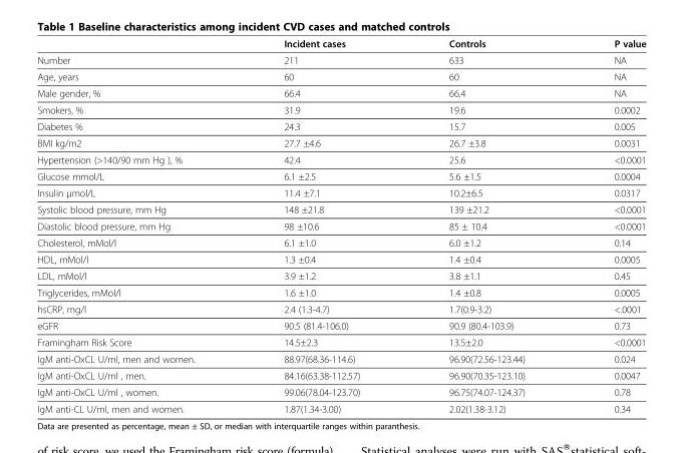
<table><thead><tr><td></td><td>Incident cases</td><td>Controls</td><td>P value</td></tr></thead><tbody><tr><td>Number</td><td>211</td><td>633</td><td>NA</td></tr><tr><td>Age, years</td><td>60</td><td>60</td><td>NA</td></tr><tr><td>Male gender, %</td><td>66.4</td><td>66.4</td><td>NA</td></tr><tr><td>Smokers, %</td><td>31.9</td><td>19.6</td><td>0.0002</td></tr><tr><td>Diabetes %</td><td>24.3</td><td>15.7</td><td>0.005</td></tr><tr><td>BMI kg/m2</td><td>27.7 ±4.6</td><td>26.7 ±3.8</td><td>0.0031</td></tr><tr><td>Hypertension (&gt;140/90 mm Hg ), %</td><td>42.4</td><td>25.6</td><td>&lt;0.0001</td></tr><tr><td>Glucose mmol/L</td><td>6.1 ±2.5</td><td>5.6 ±1.5</td><td>0.0004</td></tr><tr><td>Insulin μmol/L</td><td>11.4 ±7.1</td><td>10.2±6.5</td><td>0.0317</td></tr><tr><td>Systolic blood pressure, mm Hg</td><td>148 ±21.8</td><td>139 ±21.2</td><td>&lt;0.0001</td></tr><tr><td>Diastolic blood pressure, mm Hg</td><td>98 ±10.6</td><td>85 ± 10.4</td><td>&lt;0.0001</td></tr><tr><td>Cholesterol, mMol/l</td><td>6.1 ±1.0</td><td>6.0 ±1.2</td><td>0.14</td></tr><tr><td>HDL, mMol/l</td><td>1.3 ±0.4</td><td>1.4 ±0.4</td><td>0.0005</td></tr><tr><td>LDL, mMol/l</td><td>3.9 ±1.2</td><td>3.8 ±1.1</td><td>0.45</td></tr><tr><td>Triglycerides, mMol/l</td><td>1.6 ±1.0</td><td>1.4 ±0.8</td><td>0.0005</td></tr><tr><td>hsCRP, mg/l</td><td>2.4 (1.3-4.7)</td><td>1.7(0.9-3.2)</td><td>&lt;.0001</td></tr><tr><td>eGFR</td><td>90.5 (81.4-106.0)</td><td>90.9 (80.4-103.9)</td><td>0.73</td></tr><tr><td>Framingham Risk Score</td><td>14.5±2.3</td><td>13.5±2.0</td><td>&lt;0.0001</td></tr><tr><td>IgM anti-OxCL U/ml, men and women.</td><td>88.97(68.36-114.6)</td><td>96.90(72.56-123.44)</td><td>0.024</td></tr><tr><td>IgM anti-OxCL U/ml , men.</td><td>84.16(63.38-112.57)</td><td>96.90(70.35-123.10)</td><td>0.0047</td></tr><tr><td>IgM anti-OxCL U/ml , women.</td><td>99.06(78.04-123.70)</td><td>96.75(74.07-124.37)</td><td>0.78</td></tr><tr><td>IgM anti-CL U/ml, men and women.</td><td>1.87(1.34-3.00)</td><td>2.02(1.38-3.12)</td><td>0.34</td></tr></tbody></table>